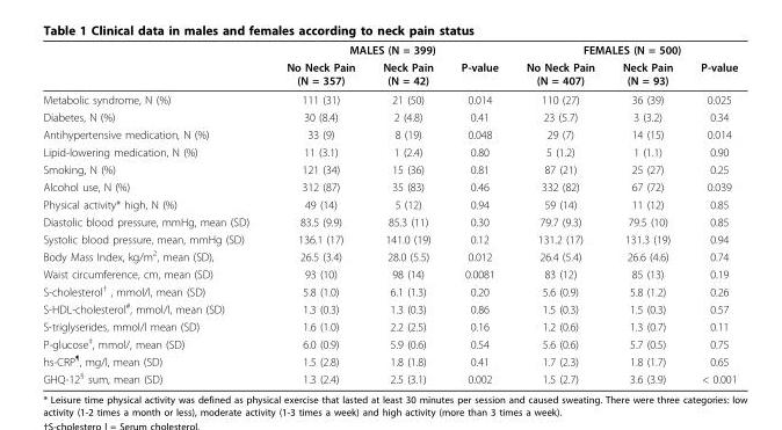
<table><thead><tr><td rowspan="2"></td><td colspan="3">MALES (N = 399)</td><td colspan="3">FEMALES (N = 500)</td></tr><tr><td>No Neck Pain (N = 357)</td><td>Neck Pain (N = 42)</td><td>P-value</td><td>No Neck Pain (N = 407)</td><td>Neck Pain (N = 93)</td><td>P-value</td></tr></thead><tbody><tr><td>Metabolic syndrome, N (%)</td><td>111 (31)</td><td>21 (50)</td><td>0.014</td><td>110 (27)</td><td>36 (39)</td><td>0.025</td></tr><tr><td>Diabetes, N (%)</td><td>30 (8.4)</td><td>2 (4.8)</td><td>0.41</td><td>23 (5.7)</td><td>3 (3.2)</td><td>0.34</td></tr><tr><td>Antihypertensive medication, N (%)</td><td>33 (9)</td><td>8 (19)</td><td>0.048</td><td>29 (7)</td><td>14 (15)</td><td>0.014</td></tr><tr><td>Lipid-lowering medication, N (%)</td><td>11 (3.1)</td><td>1 (2.4)</td><td>0.80</td><td>5 (1.2)</td><td>1 (1.1)</td><td>0.90</td></tr><tr><td>Smoking, N (%)</td><td>121 (34)</td><td>15 (36)</td><td>0.81</td><td>87 (21)</td><td>25 (27)</td><td>0.25</td></tr><tr><td>Alcohol use, N (%)</td><td>312 (87)</td><td>35 (83)</td><td>0.46</td><td>332 (82)</td><td>67 (72)</td><td>0.039</td></tr><tr><td>Physical activity* high, N (%)</td><td>49 (14)</td><td>5 (12)</td><td>0.94</td><td>59 (14)</td><td>11 (12)</td><td>0.85</td></tr><tr><td>Diastolic blood pressure, mmHg, mean (SD)</td><td>83.5 (9.9)</td><td>85.3 (11)</td><td>0.30</td><td>79.7 (9.3)</td><td>79.5 (10)</td><td>0.85</td></tr><tr><td>Systolic blood pressure, mean, mmHg (SD)</td><td>136.1 (17)</td><td>141.0 (19)</td><td>0.12</td><td>131.2 (17)</td><td>131.3 (19)</td><td>0.94</td></tr><tr><td>Body Mass Index, kg/m<sup>2</sup>, mean (SD),</td><td>26.5 (3.4)</td><td>28.0 (5.5)</td><td>0.012</td><td>26.4 (5.4)</td><td>26.6 (4.6)</td><td>0.74</td></tr><tr><td>Waist circumference, cm, mean (SD)</td><td>93 (10)</td><td>98 (14)</td><td>0.0081</td><td>83 (12)</td><td>85 (13)</td><td>0.19</td></tr><tr><td>S-cholesterol<sup>†</sup> , mmol/l, mean (SD)</td><td>5.8 (1.0)</td><td>6.1 (1.3)</td><td>0.20</td><td>5.6 (0.9)</td><td>5.8 (1.2)</td><td>0.26</td></tr><tr><td>S-HDL-cholesterol<sup>#</sup>, mmol/l, mean (SD)</td><td>1.3 (0.3)</td><td>1.3 (0.3)</td><td>0.86</td><td>1.5 (0.3)</td><td>1.5 (0.3)</td><td>0.57</td></tr><tr><td>S-triglyserides, mmol/l mean (SD)</td><td>1.6 (1.0)</td><td>2.2 (2.5)</td><td>0.16</td><td>1.2 (0.6)</td><td>1.3 (0.7)</td><td>0.11</td></tr><tr><td>P-glucose<sup>‡</sup>, mmol/, mean (SD)</td><td>6.0 (0.9)</td><td>5.9 (0.6)</td><td>0.54</td><td>5.6 (0.6)</td><td>5.7 (0.5)</td><td>0.75</td></tr><tr><td>hs-CRP<sup>¶</sup>, mg/l, mean (SD)</td><td>1.5 (2.8)</td><td>1.8 (1.8)</td><td>0.41</td><td>1.7 (2.3)</td><td>1.8 (1.7)</td><td>0.65</td></tr><tr><td>GHQ-12<sup>§</sup> sum, mean (SD)</td><td>1.3 (2.4)</td><td>2.5 (3.1)</td><td>0.002</td><td>1.5 (2.7)</td><td>3.6 (3.9)</td><td>&lt; 0.001</td></tr></tbody></table>